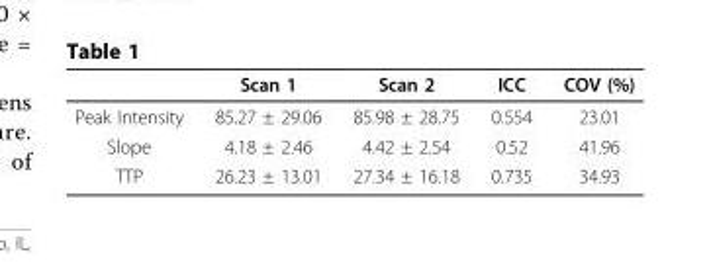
<table><thead><tr><td></td><td>Scan 1</td><td>Scan 2</td><td>ICC</td><td>COV (%)</td></tr></thead><tbody><tr><td>Peak Intensity</td><td>85.27 ± 29.06</td><td>85.98 ± 28.75</td><td>0.554</td><td>23.01</td></tr><tr><td>Slope</td><td>4.18 ± 2.46</td><td>4.42 ± 2.54</td><td>0.52</td><td>41.96</td></tr><tr><td>TTP</td><td>26.23 ± 13.01</td><td>27.34 ± 16.18</td><td>0.735</td><td>34.93</td></tr></tbody></table>